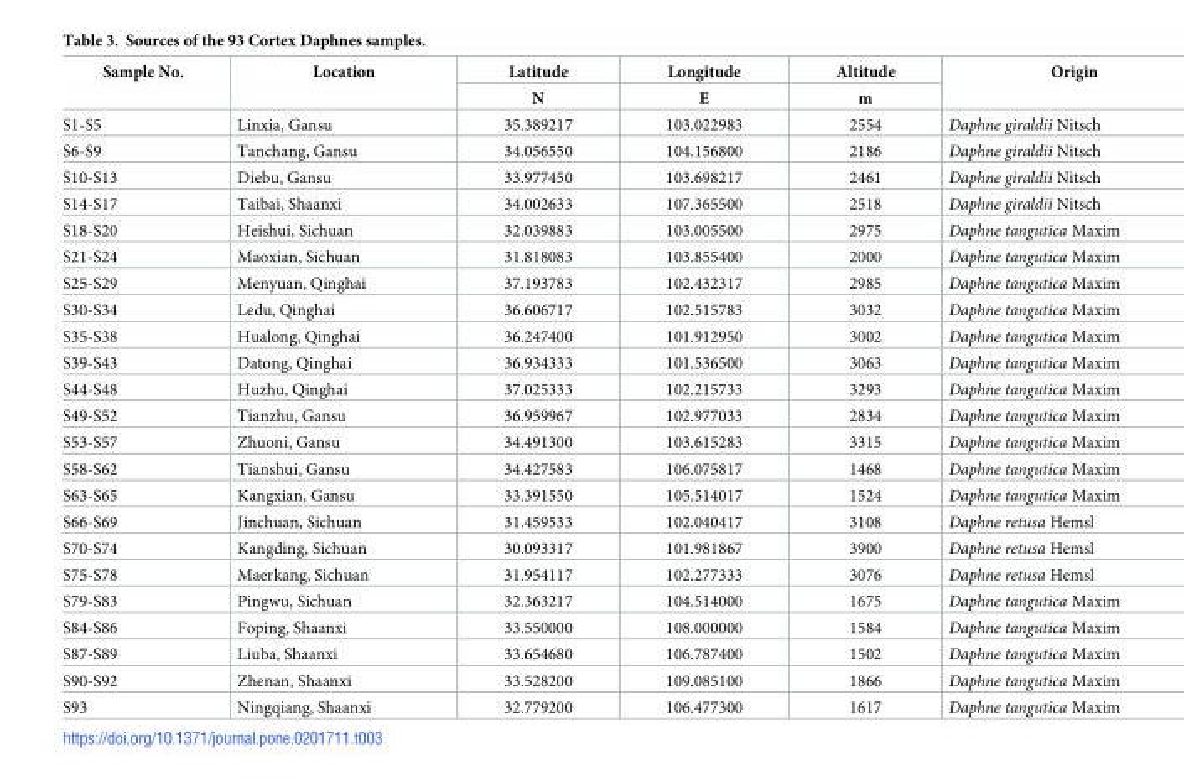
<table><thead><tr><td rowspan="2">Sample No.</td><td rowspan="2">Location</td><td rowspan="2">Latitude N</td><td rowspan="2">Longitude E</td><td rowspan="2">Altitude m</td><td rowspan="2">Origin</td></tr><tr></tr></thead><tbody><tr><td>S1-S5</td><td>Linxia, Gansu</td><td>35.389217</td><td>103.022983</td><td>2554</td><td>Daphne giraldii Nitsch</td></tr><tr><td>S6-S9</td><td>Tanchang, Gansu</td><td>34.056550</td><td>104.156800</td><td>2186</td><td>Daphne giraldii Nitsch</td></tr><tr><td>S10-S13</td><td>Diebu, Gansu</td><td>33.977450</td><td>103.698217</td><td>2461</td><td>Daphne giraldii Nitsch</td></tr><tr><td>S14-S17</td><td>Taibai, Shaanxi</td><td>34.002633</td><td>107.365500</td><td>2518</td><td>Daphne giraldii Nitsch</td></tr><tr><td>S18-S20</td><td>Heishui, Sichuan</td><td>32.039883</td><td>103.005500</td><td>2975</td><td>Daphne tangutica Maxim</td></tr><tr><td>S21-S24</td><td>Maoxian, Sichuan</td><td>31.818083</td><td>103.855400</td><td>2000</td><td>Daphne tangutica Maxim</td></tr><tr><td>S25-S29</td><td>Menyuan, Qinghai</td><td>37.193783</td><td>102.432317</td><td>2985</td><td>Daphne tangutica Maxim</td></tr><tr><td>S30-S34</td><td>Ledu, Qinghai</td><td>36.606717</td><td>102.515783</td><td>3032</td><td>Daphne tangutica Maxim</td></tr><tr><td>S35-S38</td><td>Hualong, Qinghai</td><td>36.247400</td><td>101.912950</td><td>3002</td><td>Daphne tangutica Maxim</td></tr><tr><td>S39-S43</td><td>Datong, Qinghai</td><td>36.934333</td><td>101.536500</td><td>3063</td><td>Daphne tangutica Maxim</td></tr><tr><td>S44-S48</td><td>Huzhu, Qinghai</td><td>37.025333</td><td>102.215733</td><td>3293</td><td>Daphne tangutica Maxim</td></tr><tr><td>S49-S52</td><td>Tianzhu, Gansu</td><td>36.959967</td><td>102.977033</td><td>2834</td><td>Daphne tangutica Maxim</td></tr><tr><td>S53-S57</td><td>Zhuoni, Gansu</td><td>34.491300</td><td>103.615283</td><td>3315</td><td>Daphne tangutica Maxim</td></tr><tr><td>S58-S62</td><td>Tianshui, Gansu</td><td>34.427583</td><td>106.075817</td><td>1468</td><td>Daphne tangutica Maxim</td></tr><tr><td>S63-S65</td><td>Kangxian, Gansu</td><td>33.391550</td><td>105.514017</td><td>1524</td><td>Daphne tangutica Maxim</td></tr><tr><td>S66-S69</td><td>Jinchuan, Sichuan</td><td>31.459533</td><td>102.040417</td><td>3108</td><td>Daphne retusa Hemsl</td></tr><tr><td>S70-S74</td><td>Kangding, Sichuan</td><td>30.093317</td><td>101.981867</td><td>3900</td><td>Daphne retusa Hemsl</td></tr><tr><td>S75-S78</td><td>Maerkang, Sichuan</td><td>31.954117</td><td>102.277333</td><td>3076</td><td>Daphne retusa Hemsl</td></tr><tr><td>S79-S83</td><td>Pingwu, Sichuan</td><td>32.363217</td><td>104.514000</td><td>1675</td><td>Daphne tangutica Maxim</td></tr><tr><td>S84-S86</td><td>Foping, Shaanxi</td><td>33.550000</td><td>108.000000</td><td>1584</td><td>Daphne tangutica Maxim</td></tr><tr><td>S87-S89</td><td>Liuba, Shaanxi</td><td>33.654680</td><td>106.787400</td><td>1502</td><td>Daphne tangutica Maxim</td></tr><tr><td>S90-S92</td><td>Zhenan, Shaanxi</td><td>33.528200</td><td>109.085100</td><td>1866</td><td>Daphne tangutica Maxim</td></tr><tr><td>S93</td><td>Ningqiang, Shaanxi</td><td>32.779200</td><td>106.477300</td><td>1617</td><td>Daphne tangutica Maxim</td></tr></tbody></table>